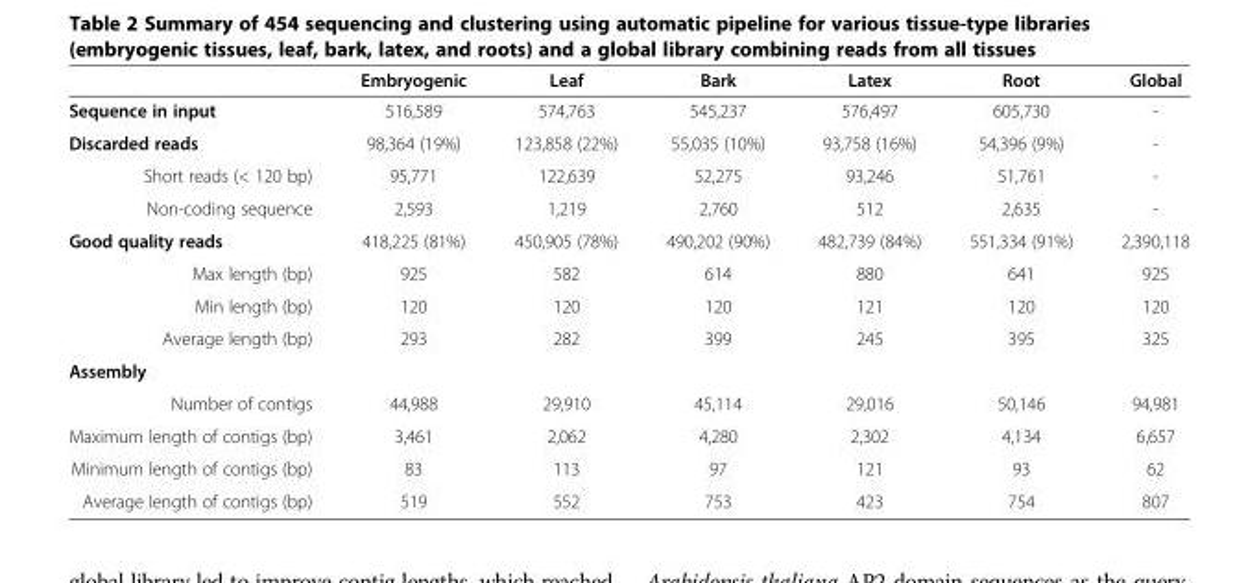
<table><thead><tr><td></td><td>Embryogenic</td><td>Leaf</td><td>Bark</td><td>Latex</td><td>Root</td><td>Global</td></tr></thead><tbody><tr><td>Sequence in input</td><td>516,589</td><td>574,763</td><td>545,237</td><td>576,497</td><td>605,730</td><td>-</td></tr><tr><td>Discarded reads</td><td>98,364 (19%)</td><td>123,858 (22%)</td><td>55,035 (10%)</td><td>93,758 (16%)</td><td>54,396 (9%)</td><td>-</td></tr><tr><td>Short reads (&lt; 120 bp)</td><td>95,771</td><td>122,639</td><td>52,275</td><td>93,246</td><td>51,761</td><td>-</td></tr><tr><td>Non-coding sequence</td><td>2,593</td><td>1,219</td><td>2,760</td><td>512</td><td>2,635</td><td>-</td></tr><tr><td>Good quality reads</td><td>418,225 (81%)</td><td>450,905 (78%)</td><td>490,202 (90%)</td><td>482,739 (84%)</td><td>551,334 (91%)</td><td>2,390,118</td></tr><tr><td>Max length (bp)</td><td>925</td><td>582</td><td>614</td><td>880</td><td>641</td><td>925</td></tr><tr><td>Min length (bp)</td><td>120</td><td>120</td><td>120</td><td>121</td><td>120</td><td>120</td></tr><tr><td>Average length (bp)</td><td>293</td><td>282</td><td>399</td><td>245</td><td>395</td><td>325</td></tr><tr><td colspan="7">Assembly</td></tr><tr><td>Number of contigs</td><td>44,988</td><td>29,910</td><td>45,114</td><td>29,016</td><td>50,146</td><td>94,981</td></tr><tr><td>Maximum length of contigs (bp)</td><td>3,461</td><td>2,062</td><td>4,280</td><td>2,302</td><td>4,134</td><td>6,657</td></tr><tr><td>Minimum length of contigs (bp)</td><td>83</td><td>113</td><td>97</td><td>121</td><td>93</td><td>62</td></tr><tr><td>Average length of contigs (bp)</td><td>519</td><td>552</td><td>753</td><td>423</td><td>754</td><td>807</td></tr></tbody></table>